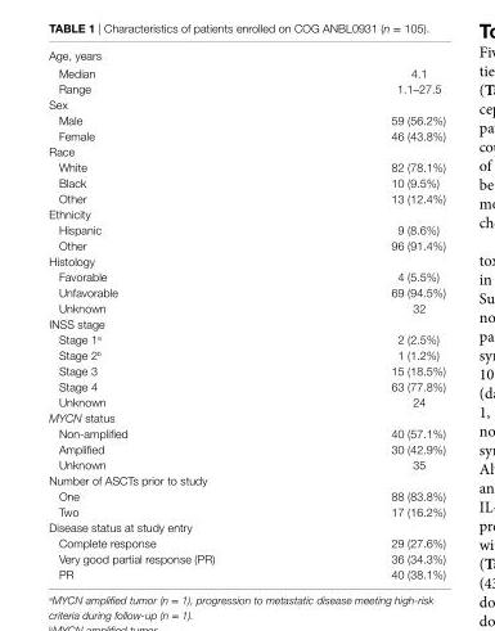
<table><tbody><tr><td colspan="2">Age, years</td></tr><tr><td>Median</td><td>4.1</td></tr><tr><td>Range</td><td>1.1–27.5</td></tr><tr><td colspan="2">Sex</td></tr><tr><td>Male</td><td>59 (56.2%)</td></tr><tr><td>Female</td><td>46 (43.8%)</td></tr><tr><td colspan="2">Race</td></tr><tr><td>White</td><td>82 (78.1%)</td></tr><tr><td>Black</td><td>10 (9.5%)</td></tr><tr><td>Other</td><td>13 (12.4%)</td></tr><tr><td colspan="2">Ethnicity</td></tr><tr><td>Hispanic</td><td>9 (8.6%)</td></tr><tr><td>Other</td><td>96 (91.4%)</td></tr><tr><td colspan="2">Histology</td></tr><tr><td>Favorable</td><td>4 (5.5%)</td></tr><tr><td>Unfavorable</td><td>69 (94.5%)</td></tr><tr><td>Unknown</td><td>32</td></tr><tr><td colspan="2">INSS stage</td></tr><tr><td>Stage 1<sup>a</sup></td><td>2 (2.5%)</td></tr><tr><td>Stage 2<sup>b</sup></td><td>1 (1.2%)</td></tr><tr><td>Stage 3</td><td>15 (18.5%)</td></tr><tr><td>Stage 4</td><td>63 (77.8%)</td></tr><tr><td>Unknown</td><td>24</td></tr><tr><td colspan="2">MYCN status</td></tr><tr><td>Non-amplified</td><td>40 (57.1%)</td></tr><tr><td>Amplified</td><td>30 (42.9%)</td></tr><tr><td>Unknown</td><td>35</td></tr><tr><td colspan="2">Number of ASCTs prior to study</td></tr><tr><td>One</td><td>88 (83.8%)</td></tr><tr><td>Two</td><td>17 (16.2%)</td></tr><tr><td colspan="2">Disease status at study entry</td></tr><tr><td>Complete response</td><td>29 (27.6%)</td></tr><tr><td>Very good partial response (PR)</td><td>36 (34.3%)</td></tr><tr><td>PR</td><td>40 (38.1%)</td></tr></tbody></table>